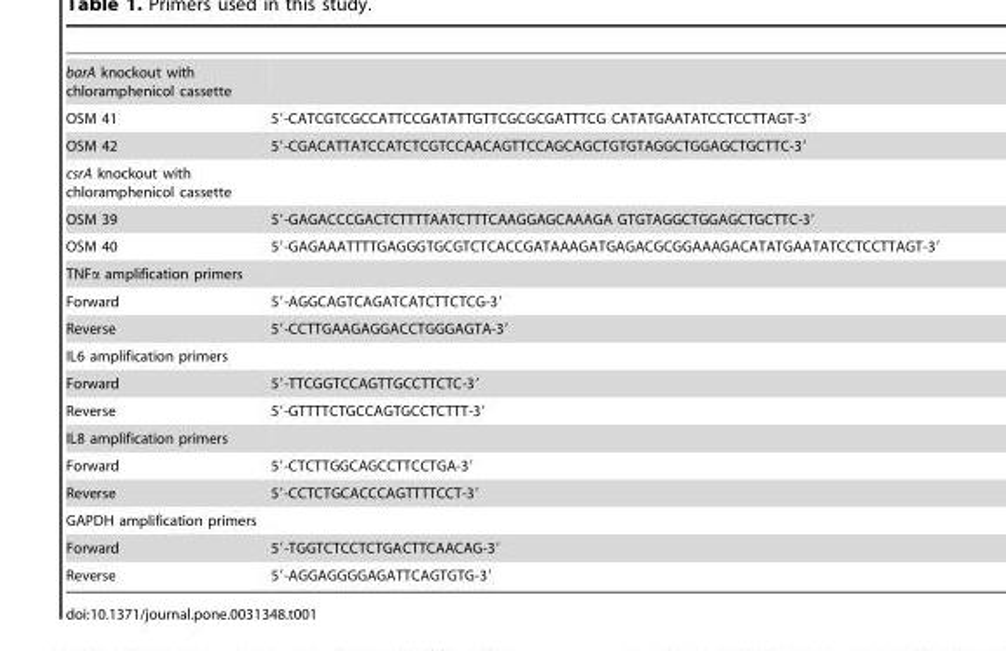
<table><tbody><tr><td colspan="2">barA knockout with chloramphenicol cassette</td></tr><tr><td>OSM 41</td><td>5′-CATCGTCGCCATTCCGATATTGTTCGCGCGATTTCG CATATGAATATCCTCCTTAGT-3′</td></tr><tr><td>OSM 42</td><td>5′-CGACATTATCCATCTCGTCCAACAGTTCCAGCAGCTGTGTAGGCTGGAGCTGCTTC-3′</td></tr><tr><td colspan="2">csrA knockout with chloramphenicol cassette</td></tr><tr><td>OSM 39</td><td>5′-GAGACCCGACTCTTTTAATCTTTCAAGGAGCAAAGA GTGTAGGCTGGAGCTGCTTC-3′</td></tr><tr><td>OSM 40</td><td>5′-GAGAAATTTTGAGGGTGCGTCTCACCGATAAAGATGAGACGCGGAAAGACATATGAATATCCTCCTTAGT-3′</td></tr><tr><td colspan="2">TNFα amplification primers</td></tr><tr><td>Forward</td><td>5′-AGGCAGTCAGATCATCTTCTCG-3′</td></tr><tr><td>Reverse</td><td>5′-CCTTGAAGAGGACCTGGGAGTA-3′</td></tr><tr><td colspan="2">IL6 amplification primers</td></tr><tr><td>Forward</td><td>5′-TTCGGTCCAGTTGCCTTCTC-3′</td></tr><tr><td>Reverse</td><td>5′-GTTTTCTGCCAGTGCCTCTTT-3′</td></tr><tr><td colspan="2">IL8 amplification primers</td></tr><tr><td>Forward</td><td>5′-CTCTTGGCAGCCTTCCTGA-3′</td></tr><tr><td>Reverse</td><td>5′-CCTCTGCACCCAGTTTTCCT-3′</td></tr><tr><td colspan="2">GAPDH amplification primers</td></tr><tr><td>Forward</td><td>5′-TGGTCTCCTCTGACTTCAACAG-3′</td></tr><tr><td>Reverse</td><td>5′-AGGAGGGGAGATTCAGTGTG-3′</td></tr></tbody></table>